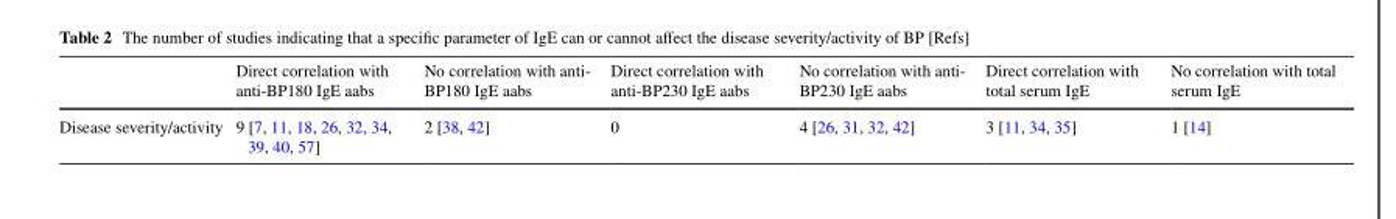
<table><thead><tr><td></td><td>Direct correlation with anti-BP180 IgE aabs</td><td>No correlation with anti- BP180 IgE aabs</td><td>Direct correlation with anti-BP230 IgE aabs</td><td>No correlation with anti- BP230 IgE aabs</td><td>Direct correlation with total serum IgE</td><td>No correlation with total serum IgE</td></tr></thead><tbody><tr><td>Disease severity/activity</td><td>9 [7, 11, 18, 26, 32, 34, 39, 40, 57]</td><td>2 [38, 42]</td><td>0</td><td>4 [26, 31, 32, 42]</td><td>3 [11, 34, 35]</td><td>1 [14]</td></tr></tbody></table>